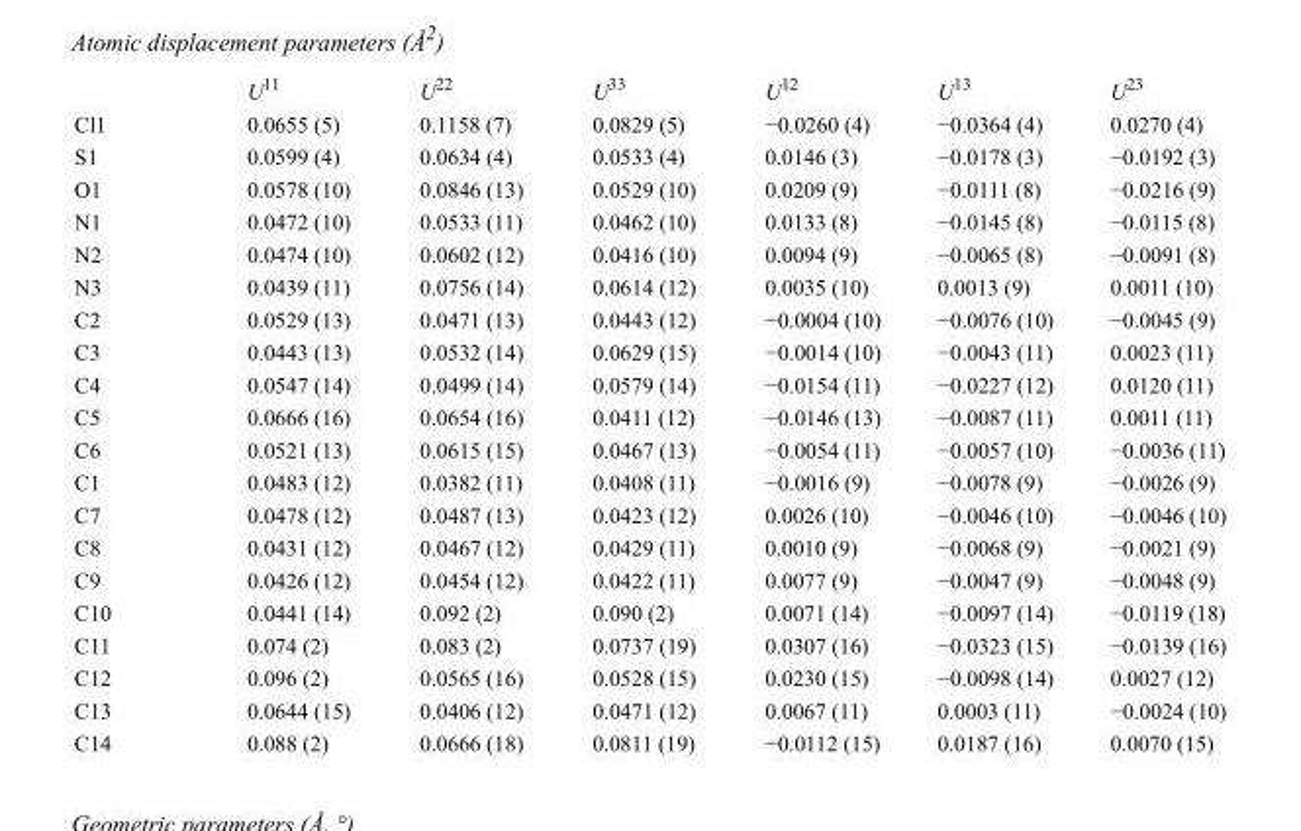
<table><thead><tr><td></td><td>U<sup>11</sup></td><td>U<sup>22</sup></td><td>U<sup>33</sup></td><td>U<sup>12</sup></td><td>U<sup>13</sup></td><td>U<sup>23</sup></td></tr></thead><tbody><tr><td>Cl1</td><td>0.0655 (5)</td><td>0.1158 (7)</td><td>0.0829 (5)</td><td>−0.0260 (4)</td><td>−0.0364 (4)</td><td>0.0270 (4)</td></tr><tr><td>S1</td><td>0.0599 (4)</td><td>0.0634 (4)</td><td>0.0533 (4)</td><td>0.0146 (3)</td><td>−0.0178 (3)</td><td>−0.0192 (3)</td></tr><tr><td>O1</td><td>0.0578 (10)</td><td>0.0846 (13)</td><td>0.0529 (10)</td><td>0.0209 (9)</td><td>−0.0111 (8)</td><td>−0.0216 (9)</td></tr><tr><td>N1</td><td>0.0472 (10)</td><td>0.0533 (11)</td><td>0.0462 (10)</td><td>0.0133 (8)</td><td>−0.0145 (8)</td><td>−0.0115 (8)</td></tr><tr><td>N2</td><td>0.0474 (10)</td><td>0.0602 (12)</td><td>0.0416 (10)</td><td>0.0094 (9)</td><td>−0.0065 (8)</td><td>−0.0091 (8)</td></tr><tr><td>N3</td><td>0.0439 (11)</td><td>0.0756 (14)</td><td>0.0614 (12)</td><td>0.0035 (10)</td><td>0.0013 (9)</td><td>0.0011 (10)</td></tr><tr><td>C2</td><td>0.0529 (13)</td><td>0.0471 (13)</td><td>0.0443 (12)</td><td>−0.0004 (10)</td><td>−0.0076 (10)</td><td>−0.0045 (9)</td></tr><tr><td>C3</td><td>0.0443 (13)</td><td>0.0532 (14)</td><td>0.0629 (15)</td><td>−0.0014 (10)</td><td>−0.0043 (11)</td><td>0.0023 (11)</td></tr><tr><td>C4</td><td>0.0547 (14)</td><td>0.0499 (14)</td><td>0.0579 (14)</td><td>−0.0154 (11)</td><td>−0.0227 (12)</td><td>0.0120 (11)</td></tr><tr><td>C5</td><td>0.0666 (16)</td><td>0.0654 (16)</td><td>0.0411 (12)</td><td>−0.0146 (13)</td><td>−0.0087 (11)</td><td>0.0011 (11)</td></tr><tr><td>C6</td><td>0.0521 (13)</td><td>0.0615 (15)</td><td>0.0467 (13)</td><td>−0.0054 (11)</td><td>−0.0057 (10)</td><td>−0.0036 (11)</td></tr><tr><td>C1</td><td>0.0483 (12)</td><td>0.0382 (11)</td><td>0.0408 (11)</td><td>−0.0016 (9)</td><td>−0.0078 (9)</td><td>−0.0026 (9)</td></tr><tr><td>C7</td><td>0.0478 (12)</td><td>0.0487 (13)</td><td>0.0423 (12)</td><td>0.0026 (10)</td><td>−0.0046 (10)</td><td>−0.0046 (10)</td></tr><tr><td>C8</td><td>0.0431 (12)</td><td>0.0467 (12)</td><td>0.0429 (11)</td><td>0.0010 (9)</td><td>−0.0068 (9)</td><td>−0.0021 (9)</td></tr><tr><td>C9</td><td>0.0426 (12)</td><td>0.0454 (12)</td><td>0.0422 (11)</td><td>0.0077 (9)</td><td>−0.0047 (9)</td><td>−0.0048 (9)</td></tr><tr><td>C10</td><td>0.0441 (14)</td><td>0.092 (2)</td><td>0.090 (2)</td><td>0.0071 (14)</td><td>−0.0097 (14)</td><td>−0.0119 (18)</td></tr><tr><td>C11</td><td>0.074 (2)</td><td>0.083 (2)</td><td>0.0737 (19)</td><td>0.0307 (16)</td><td>−0.0323 (15)</td><td>−0.0139 (16)</td></tr><tr><td>C12</td><td>0.096 (2)</td><td>0.0565 (16)</td><td>0.0528 (15)</td><td>0.0230 (15)</td><td>−0.0098 (14)</td><td>0.0027 (12)</td></tr><tr><td>C13</td><td>0.0644 (15)</td><td>0.0406 (12)</td><td>0.0471 (12)</td><td>0.0067 (11)</td><td>0.0003 (11)</td><td>−0.0024 (10)</td></tr><tr><td>C14</td><td>0.088 (2)</td><td>0.0666 (18)</td><td>0.0811 (19)</td><td>−0.0112 (15)</td><td>0.0187 (16)</td><td>0.0070 (15)</td></tr></tbody></table>